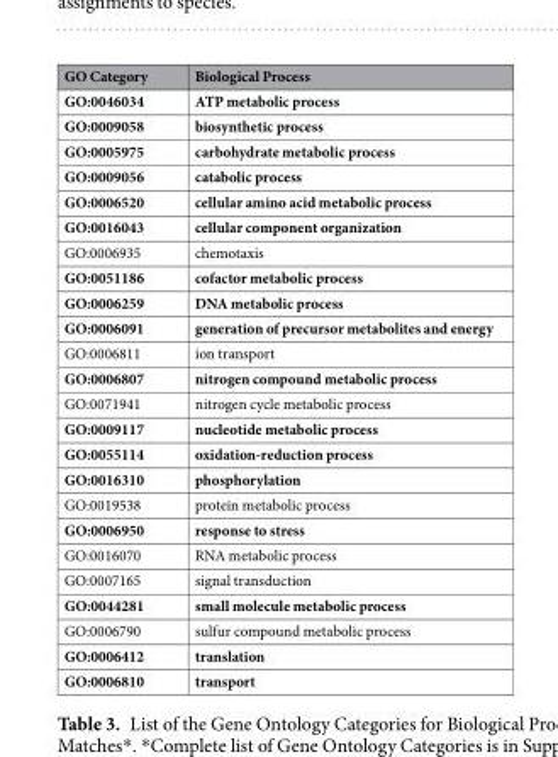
<table><thead><tr><td>GO Category</td><td>Biological Process</td></tr></thead><tbody><tr><td>GO:0046034</td><td>ATP metabolic process</td></tr><tr><td>GO:0009058</td><td>biosynthetic process</td></tr><tr><td>GO:0005975</td><td>carbohydrate metabolic process</td></tr><tr><td>GO:0009056</td><td>catabolic process</td></tr><tr><td>GO:0006520</td><td>cellular amino acid metabolic process</td></tr><tr><td>GO:0016043</td><td>cellular component organization</td></tr><tr><td>GO:0006935</td><td>chemotaxis</td></tr><tr><td>GO:0051186</td><td>cofactor metabolic process</td></tr><tr><td>GO:0006259</td><td>DNA metabolic process</td></tr><tr><td>GO:0006091</td><td>generation of precursor metabolites and energy</td></tr><tr><td>GO:0006811</td><td>ion transport</td></tr><tr><td>GO:0006807</td><td>nitrogen compound metabolic process</td></tr><tr><td>GO:0071941</td><td>nitrogen cycle metabolic process</td></tr><tr><td>GO:0009117</td><td>nucleotide metabolic process</td></tr><tr><td>GO:0055114</td><td>oxidation-reduction process</td></tr><tr><td>GO:0016310</td><td>phosphorylation</td></tr><tr><td>GO:0019538</td><td>protein metabolic process</td></tr><tr><td>GO:0006950</td><td>response to stress</td></tr><tr><td>GO:0016070</td><td>RNA metabolic process</td></tr><tr><td>GO:0007165</td><td>signal transduction</td></tr><tr><td>GO:0044281</td><td>small molecule metabolic process</td></tr><tr><td>GO:0006790</td><td>sulfur compound metabolic process</td></tr><tr><td>GO:0006412</td><td>translation</td></tr><tr><td>GO:0006810</td><td>transport</td></tr></tbody></table>